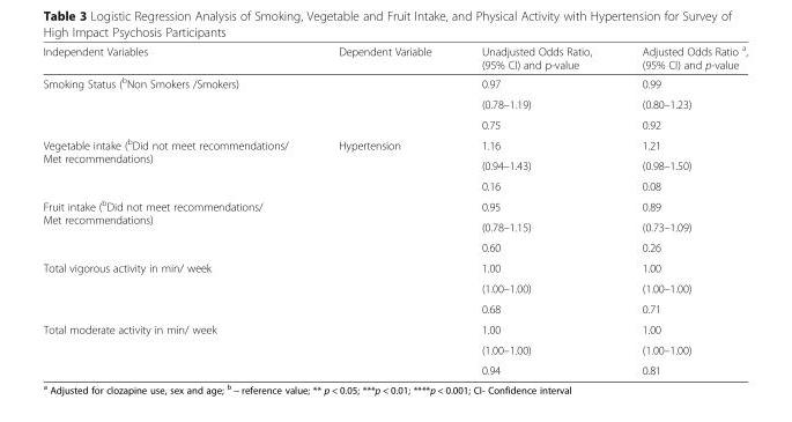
<table><thead><tr><td>Independent Variables</td><td>Dependent Variable</td><td>Unadjusted Odds Ratio, (95% CI) and p-value</td><td>Adjusted Odds Ratio <sup>a</sup>, (95% CI) and p-value</td></tr></thead><tbody><tr><td rowspan="3">Smoking Status (<sup>b</sup>Non Smokers /Smokers)</td><td rowspan="3"></td><td>0.97</td><td>0.99</td></tr><tr><td>(0.78–1.19)</td><td>(0.80–1.23)</td></tr><tr><td>0.75</td><td>0.92</td></tr><tr><td rowspan="3">Vegetable intake (<sup>b</sup>Did not meet recommendations/ Met recommendations)</td><td rowspan="3">Hypertension</td><td>1.16</td><td>1.21</td></tr><tr><td>(0.94–1.43)</td><td>(0.98–1.50)</td></tr><tr><td>0.16</td><td>0.08</td></tr><tr><td rowspan="3">Fruit intake (<sup>b</sup>Did not meet recommendations/ Met recommendations)</td><td rowspan="9"></td><td>0.95</td><td>0.89</td></tr><tr><td>(0.78–1.15)</td><td>(0.73–1.09)</td></tr><tr><td>0.60</td><td>0.26</td></tr><tr><td rowspan="3">Total vigorous activity in min/ week</td><td>1.00</td><td>1.00</td></tr><tr><td>(1.00–1.00)</td><td>(1.00–1.00)</td></tr><tr><td>0.68</td><td>0.71</td></tr><tr><td rowspan="3">Total moderate activity in min/ week</td><td>1.00</td><td>1.00</td></tr><tr><td>(1.00–1.00)</td><td>(1.00–1.00)</td></tr><tr><td>0.94</td><td>0.81</td></tr></tbody></table>